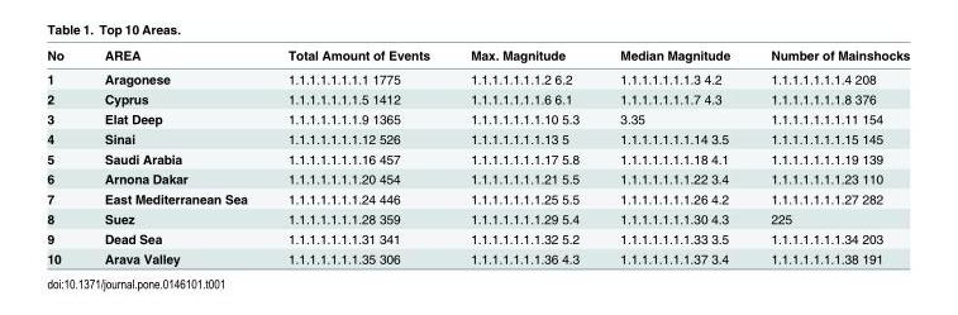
<table><thead><tr><td>No</td><td>AREA</td><td>Total Amount of Events</td><td>Max. Magnitude</td><td>Median Magnitude</td><td>Number of Mainshocks</td></tr></thead><tbody><tr><td>1</td><td>Aragonese</td><td>1.1.1.1.1.1.1.1 1775</td><td>1.1.1.1.1.1.1.2 6.2</td><td>1.1.1.1.1.1.1.3 4.2</td><td>1.1.1.1.1.1.1.4 208</td></tr><tr><td>2</td><td>Cyprus</td><td>1.1.1.1.1.1.1.5 1412</td><td>1.1.1.1.1.1.1.6 6.1</td><td>1.1.1.1.1.1.1.7 4.3</td><td>1.1.1.1.1.1.1.8 376</td></tr><tr><td>3</td><td>Elat Deep</td><td>1.1.1.1.1.1.1.9 1365</td><td>1.1.1.1.1.1.1.10 5.3</td><td>3.35</td><td>1.1.1.1.1.1.1.11 154</td></tr><tr><td>4</td><td>Sinai</td><td>1.1.1.1.1.1.1.12 526</td><td>1.1.1.1.1.1.1.13 5</td><td>1.1.1.1.1.1.1.14 3.5</td><td>1.1.1.1.1.1.1.15 145</td></tr><tr><td>5</td><td>Saudi Arabia</td><td>1.1.1.1.1.1.1.16 457</td><td>1.1.1.1.1.1.1.17 5.8</td><td>1.1.1.1.1.1.1.18 4.1</td><td>1.1.1.1.1.1.1.19 139</td></tr><tr><td>6</td><td>Arnona Dakar</td><td>1.1.1.1.1.1.1.20 454</td><td>1.1.1.1.1.1.1.21 5.5</td><td>1.1.1.1.1.1.1.22 3.4</td><td>1.1.1.1.1.1.1.23 110</td></tr><tr><td>7</td><td>East Mediterranean Sea</td><td>1.1.1.1.1.1.1.24 446</td><td>1.1.1.1.1.1.1.25 5.5</td><td>1.1.1.1.1.1.1.26 4.2</td><td>1.1.1.1.1.1.1.27 282</td></tr><tr><td>8</td><td>Suez</td><td>1.1.1.1.1.1.1.28 359</td><td>1.1.1.1.1.1.1.29 5.4</td><td>1.1.1.1.1.1.1.30 4.3</td><td>225</td></tr><tr><td>9</td><td>Dead Sea</td><td>1.1.1.1.1.1.1.31 341</td><td>1.1.1.1.1.1.1.32 5.2</td><td>1.1.1.1.1.1.1.33 3.5</td><td>1.1.1.1.1.1.1.34 203</td></tr><tr><td>10</td><td>Arava Valley</td><td>1.1.1.1.1.1.1.35 306</td><td>1.1.1.1.1.1.1.36 4.3</td><td>1.1.1.1.1.1.1.37 3.4</td><td>1.1.1.1.1.1.1.38 191</td></tr></tbody></table>